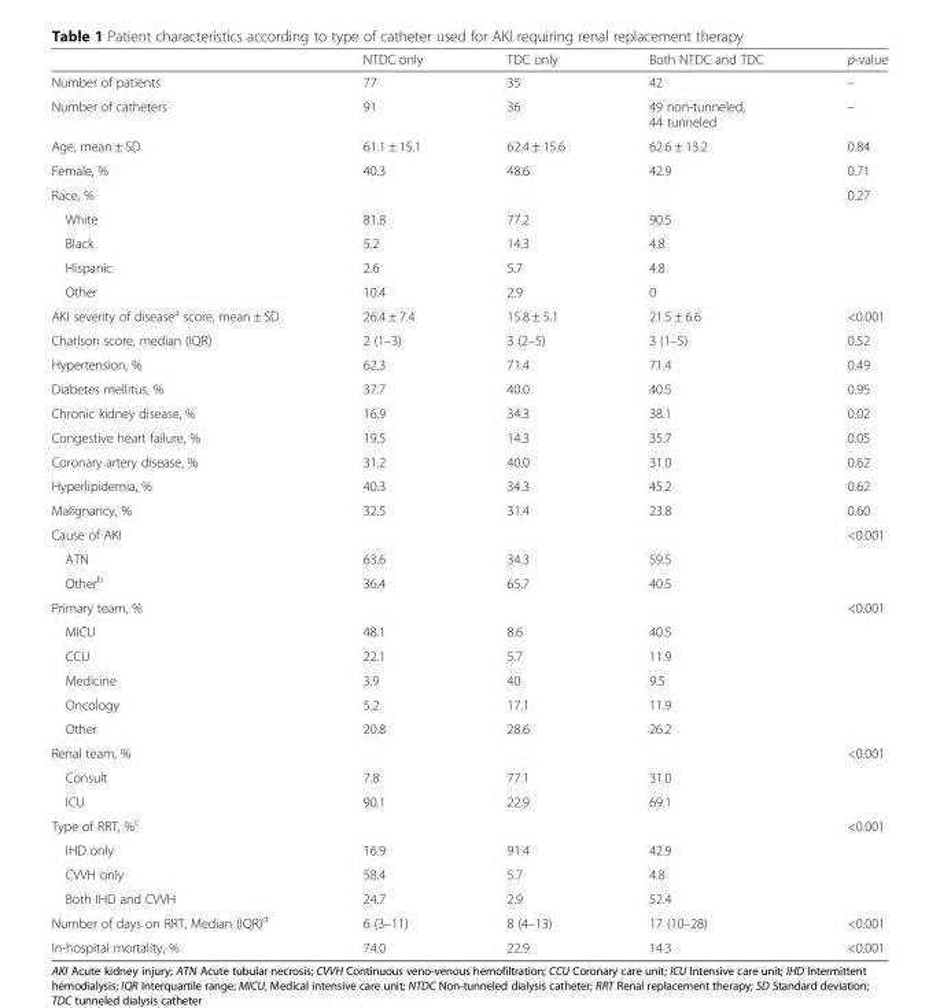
<table><thead><tr><td></td><td>NTDC only</td><td>TDC only</td><td>Both NTDC and TDC</td><td>p-value</td></tr></thead><tbody><tr><td>Number of patients</td><td>77</td><td>35</td><td>42</td><td>–</td></tr><tr><td>Number of catheters</td><td>91</td><td>36</td><td>49 non-tunneled, 44 tunneled</td><td>–</td></tr><tr><td>Age, mean ± SD</td><td>61.1 ± 15.1</td><td>62.4 ± 15.6</td><td>62.6 ± 13.2</td><td>0.84</td></tr><tr><td>Female, %</td><td>40.3</td><td>48.6</td><td>42.9</td><td>0.71</td></tr><tr><td colspan="4">Race, %</td><td>0.27</td></tr><tr><td>White</td><td>81.8</td><td>77.2</td><td>90.5</td><td></td></tr><tr><td>Black</td><td>5.2</td><td>14.3</td><td>4.8</td><td></td></tr><tr><td>Hispanic</td><td>2.6</td><td>5.7</td><td>4.8</td><td></td></tr><tr><td>Other</td><td>10.4</td><td>2.9</td><td>0</td><td></td></tr><tr><td>AKI severity of disease<sup>a</sup> score, mean ± SD</td><td>26.4 ± 7.4</td><td>15.8 ± 5.1</td><td>21.5 ± 6.6</td><td>&lt;0.001</td></tr><tr><td>Charlson score, median (IQR)</td><td>2 (1–3)</td><td>3 (2–5)</td><td>3 (1–5)</td><td>0.52</td></tr><tr><td>Hypertension, %</td><td>62.3</td><td>71.4</td><td>71.4</td><td>0.49</td></tr><tr><td>Diabetes mellitus, %</td><td>37.7</td><td>40.0</td><td>40.5</td><td>0.95</td></tr><tr><td>Chronic kidney disease, %</td><td>16.9</td><td>34.3</td><td>38.1</td><td>0.02</td></tr><tr><td>Congestive heart failure, %</td><td>19.5</td><td>14.3</td><td>35.7</td><td>0.05</td></tr><tr><td>Coronary artery disease, %</td><td>31.2</td><td>40.0</td><td>31.0</td><td>0.62</td></tr><tr><td>Hyperlipidemia, %</td><td>40.3</td><td>34.3</td><td>45.2</td><td>0.62</td></tr><tr><td>Malignancy, %</td><td>32.5</td><td>31.4</td><td>23.8</td><td>0.60</td></tr><tr><td colspan="4">Cause of AKI</td><td>&lt;0.001</td></tr><tr><td>ATN</td><td>63.6</td><td>34.3</td><td>59.5</td><td></td></tr><tr><td>Other<sup>b</sup></td><td>36.4</td><td>65.7</td><td>40.5</td><td></td></tr><tr><td colspan="4">Primary team, %</td><td>&lt;0.001</td></tr><tr><td>MICU</td><td>48.1</td><td>8.6</td><td>40.5</td><td></td></tr><tr><td>CCU</td><td>22.1</td><td>5.7</td><td>11.9</td><td></td></tr><tr><td>Medicine</td><td>3.9</td><td>40</td><td>9.5</td><td></td></tr><tr><td>Oncology</td><td>5.2</td><td>17.1</td><td>11.9</td><td></td></tr><tr><td>Other</td><td>20.8</td><td>28.6</td><td>26.2</td><td></td></tr><tr><td colspan="4">Renal team, %</td><td>&lt;0.001</td></tr><tr><td>Consult</td><td>7.8</td><td>77.1</td><td>31.0</td><td></td></tr><tr><td>ICU</td><td>90.1</td><td>22.9</td><td>69.1</td><td></td></tr><tr><td colspan="4">Type of RRT, %<sup>c</sup></td><td>&lt;0.001</td></tr><tr><td>IHD only</td><td>16.9</td><td>91.4</td><td>42.9</td><td></td></tr><tr><td>CVVH only</td><td>58.4</td><td>5.7</td><td>4.8</td><td></td></tr><tr><td>Both IHD and CVVH</td><td>24.7</td><td>2.9</td><td>52.4</td><td></td></tr><tr><td>Number of days on RRT, Median (IQR)<sup>d</sup></td><td>6 (3–11)</td><td>8 (4–13)</td><td>17 (10–28)</td><td>&lt;0.001</td></tr><tr><td>In-hospital mortality, %</td><td>74.0</td><td>22.9</td><td>14.3</td><td>&lt;0.001</td></tr></tbody></table>